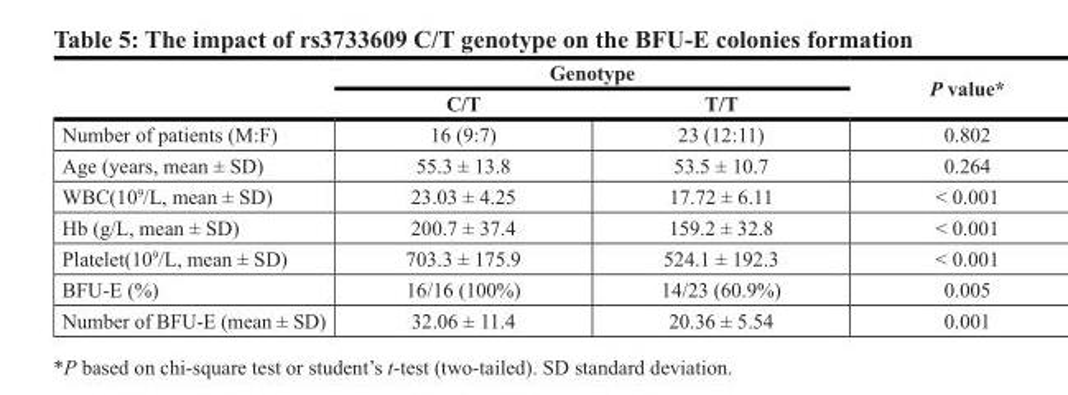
<table><thead><tr><td rowspan="2"></td><td colspan="2">Genotype</td><td rowspan="2">P value﹡</td></tr><tr><td>C/T</td><td>T/T</td></tr></thead><tbody><tr><td>Number of patients (M:F)</td><td>16 (9:7)</td><td>23 (12:11)</td><td>0.802</td></tr><tr><td>Age (years, mean ± SD)</td><td>55.3 ± 13.8</td><td>53.5 ± 10.7</td><td>0.264</td></tr><tr><td>WBC(10<sup>9</sup>/L, mean ± SD)</td><td>23.03 ± 4.25</td><td>17.72 ± 6.11</td><td>&lt; 0.001</td></tr><tr><td>Hb (g/L, mean ± SD)</td><td>200.7 ± 37.4</td><td>159.2 ± 32.8</td><td>&lt; 0.001</td></tr><tr><td>Platelet(10<sup>9</sup>/L, mean ± SD)</td><td>703.3 ± 175.9</td><td>524.1 ± 192.3</td><td>&lt; 0.001</td></tr><tr><td>BFU-E (%)</td><td>16/16 (100%)</td><td>14/23 (60.9%)</td><td>0.005</td></tr><tr><td>Number of BFU-E (mean ± SD)</td><td>32.06 ± 11.4</td><td>20.36 ± 5.54</td><td>0.001</td></tr></tbody></table>